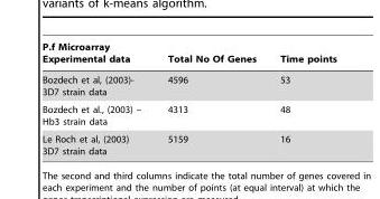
<table><thead><tr><td>P.f Microarray Experimental data</td><td>Total No Of Genes</td><td>Time points</td></tr></thead><tbody><tr><td>Bozdech et al, (2003)- 3D7 strain data</td><td>4596</td><td>53</td></tr><tr><td>Bozdech et al., (2003) – Hb3 strain data</td><td>4313</td><td>48</td></tr><tr><td>Le Roch et al, (2003) 3D7 strain data</td><td>5159</td><td>16</td></tr></tbody></table>